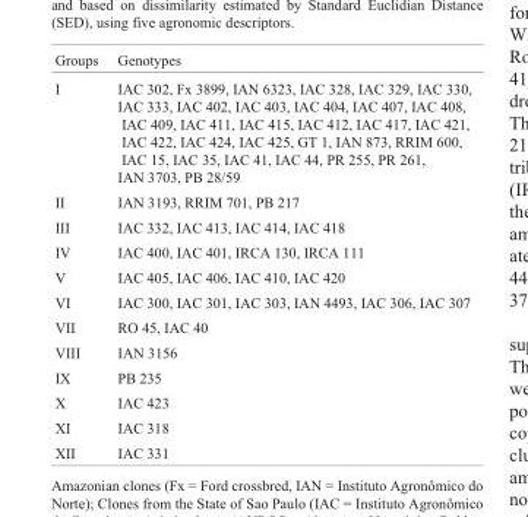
<table><thead><tr><td>Groups</td><td>Genotypes</td></tr></thead><tbody><tr><td>I</td><td>IAC 302, Fx 3899, IAN 6323, IAC 328, IAC 329, IAC 330, IAC 333, IAC 402, IAC 403, IAC 404, IAC 407, IAC 408, IAC 409, IAC 411, IAC 415, IAC 412, IAC 417, IAC 421, IAC 422, IAC 424, IAC 425, GT 1, IAN 873, RRIM 600, IAC 15, IAC 35, IAC 41, IAC 44, PR 255, PR 261, IAN 3703, PB 28/59</td></tr><tr><td>II</td><td>IAN 3193, RRIM 701, PB 217</td></tr><tr><td>III</td><td>IAC 332, IAC 413, IAC 414, IAC 418</td></tr><tr><td>IV</td><td>IAC 400, IAC 401, IRCA 130, IRCA 111</td></tr><tr><td>V</td><td>IAC 405, IAC 406, IAC 410, IAC 420</td></tr><tr><td>VI</td><td>IAC 300, IAC 301, IAC 303, IAN 4493, IAC 306, IAC 307</td></tr><tr><td>VII</td><td>RO 45, IAC 40</td></tr><tr><td>VIII</td><td>IAN 3156</td></tr><tr><td>IX</td><td>PB 235</td></tr><tr><td>X</td><td>IAC 423</td></tr><tr><td>XI</td><td>IAC 318</td></tr><tr><td>XII</td><td>IAC 331</td></tr></tbody></table>